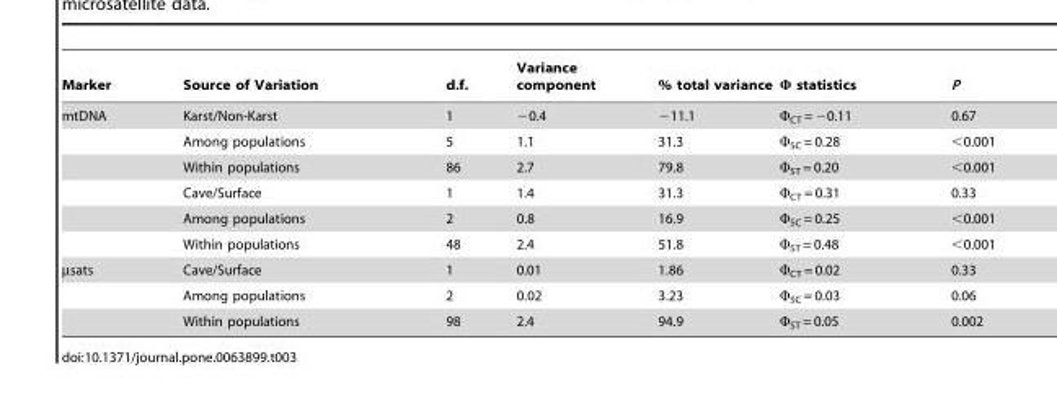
<table><thead><tr><td>Marker</td><td>Source of Variation</td><td>d.f.</td><td>Variance component</td><td>% total variance</td><td>Φ statistics</td><td>P</td></tr></thead><tbody><tr><td rowspan="6">mtDNA</td><td>Karst/Non-Karst</td><td>1</td><td>−0.4</td><td>−11.1</td><td>Φ<sub>CT</sub> = −0.11</td><td>0.67</td></tr><tr><td>Among populations</td><td>5</td><td>1.1</td><td>31.3</td><td>Φ<sub>SC</sub> = 0.28</td><td>&lt;0.001</td></tr><tr><td>Within populations</td><td>86</td><td>2.7</td><td>79.8</td><td>Φ<sub>ST</sub> = 0.20</td><td>&lt;0.001</td></tr><tr><td>Cave/Surface</td><td>1</td><td>1.4</td><td>31.3</td><td>Φ<sub>CT</sub> = 0.31</td><td>0.33</td></tr><tr><td>Among populations</td><td>2</td><td>0.8</td><td>16.9</td><td>Φ<sub>SC</sub> = 0.25</td><td>&lt;0.001</td></tr><tr><td>Within populations</td><td>48</td><td>2.4</td><td>51.8</td><td>Φ<sub>ST</sub> = 0.48</td><td>&lt;0.001</td></tr><tr><td rowspan="3">µsats</td><td>Cave/Surface</td><td>1</td><td>0.01</td><td>1.86</td><td>Φ<sub>CT</sub> = 0.02</td><td>0.33</td></tr><tr><td>Among populations</td><td>2</td><td>0.02</td><td>3.23</td><td>Φ<sub>SC</sub> = 0.03</td><td>0.06</td></tr><tr><td>Within populations</td><td>98</td><td>2.4</td><td>94.9</td><td>Φ<sub>ST</sub> = 0.05</td><td>0.002</td></tr></tbody></table>